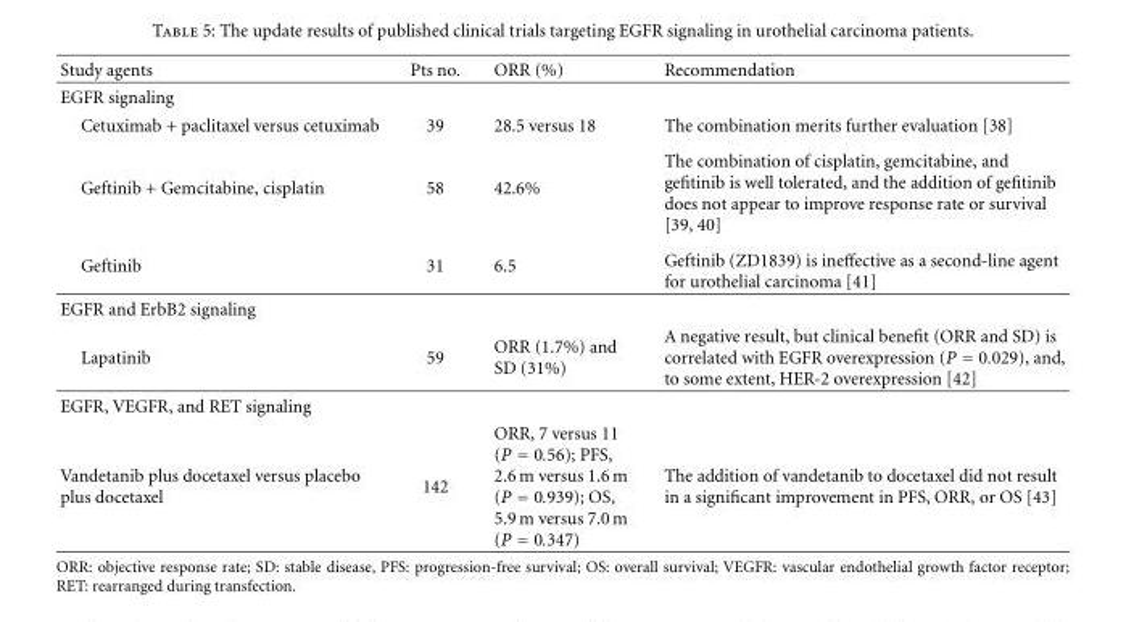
<table><thead><tr><td>Study agents</td><td>Pts no.</td><td>ORR (%)</td><td>Recommendation</td></tr></thead><tbody><tr><td colspan="4">EGFR signaling</td></tr><tr><td>Cetuximab + paclitaxel versus cetuximab</td><td>39</td><td>28.5 versus 18</td><td>The combination merits further evaluation [38]</td></tr><tr><td>Geftinib + Gemcitabine, cisplatin</td><td>58</td><td>42.6%</td><td>The combination of cisplatin, gemcitabine, and gefitinib is well tolerated, and the addition of gefitinib does not appear to improve response rate or survival [39, 40]</td></tr><tr><td>Geftinib</td><td>31</td><td>6.5</td><td>Geftinib (ZD1839) is ineffective as a second-line agent for urothelial carcinoma [41]</td></tr><tr><td colspan="4">EGFR and ErbB2 signaling</td></tr><tr><td>Lapatinib</td><td>59</td><td>ORR (1.7%) and SD (31%)</td><td>A negative result, but clinical benefit (ORR and SD) is correlated with EGFR overexpression (P = 0.029), and, to some extent, HER-2 overexpression [42]</td></tr><tr><td colspan="4">EGFR, VEGFR, and RET signaling</td></tr><tr><td>Vandetanib plus docetaxel versus placebo plus docetaxel</td><td>142</td><td>ORR, 7 versus 11 (P = 0.56); PFS, 2.6 m versus 1.6 m (P = 0.939); OS, 5.9 m versus 7.0 m (P = 0.347)</td><td>The addition of vandetanib to docetaxel did not result in a significant improvement in PFS, ORR, or OS [43]</td></tr></tbody></table>